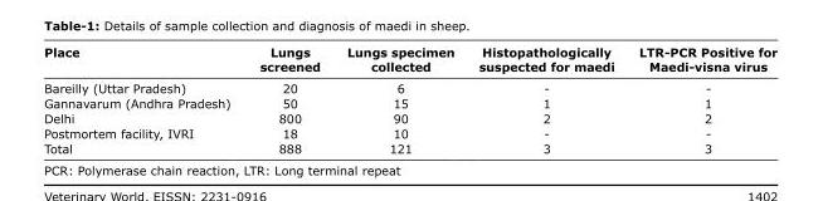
<table><thead><tr><td>Place</td><td>Lungs screened</td><td>Lungs specimen collected</td><td>Histopathologically suspected for maedi</td><td>LTR-PCR Positive for Maedi-visna virus</td></tr></thead><tbody><tr><td>Bareilly (Uttar Pradesh)</td><td>20</td><td>6</td><td>-</td><td>-</td></tr><tr><td>Gannavarum (Andhra Pradesh)</td><td>50</td><td>15</td><td>1</td><td>1</td></tr><tr><td>Delhi</td><td>800</td><td>90</td><td>2</td><td>2</td></tr><tr><td>Postmortem facility, IVRI</td><td>18</td><td>10</td><td>-</td><td>-</td></tr><tr><td>Total</td><td>888</td><td>121</td><td>3</td><td>3</td></tr></tbody></table>